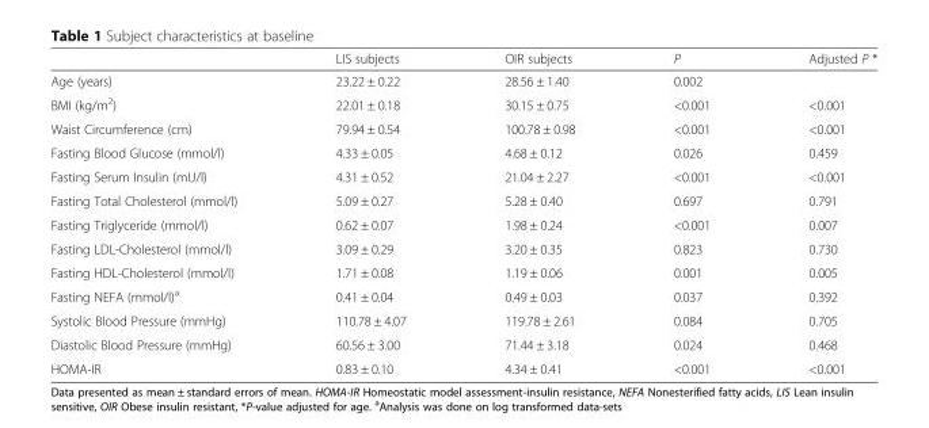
<table><thead><tr><td></td><td>LIS subjects</td><td>OIR subjects</td><td>P</td><td>Adjusted P *</td></tr></thead><tbody><tr><td>Age (years)</td><td>23.22 ± 0.22</td><td>28.56 ± 1.40</td><td>0.002</td><td></td></tr><tr><td>BMI (kg/m<sup>2</sup>)</td><td>22.01 ± 0.18</td><td>30.15 ± 0.75</td><td>&lt;0.001</td><td>&lt;0.001</td></tr><tr><td>Waist Circumference (cm)</td><td>79.94 ± 0.54</td><td>100.78 ± 0.98</td><td>&lt;0.001</td><td>&lt;0.001</td></tr><tr><td>Fasting Blood Glucose (mmol/l)</td><td>4.33 ± 0.05</td><td>4.68 ± 0.12</td><td>0.026</td><td>0.459</td></tr><tr><td>Fasting Serum Insulin (mU/l)</td><td>4.31 ± 0.52</td><td>21.04 ± 2.27</td><td>&lt;0.001</td><td>&lt;0.001</td></tr><tr><td>Fasting Total Cholesterol (mmol/l)</td><td>5.09 ± 0.27</td><td>5.28 ± 0.40</td><td>0.697</td><td>0.791</td></tr><tr><td>Fasting Triglyceride (mmol/l)</td><td>0.62 ± 0.07</td><td>1.98 ± 0.24</td><td>&lt;0.001</td><td>0.007</td></tr><tr><td>Fasting LDL-Cholesterol (mmol/l)</td><td>3.09 ± 0.29</td><td>3.20 ± 0.35</td><td>0.823</td><td>0.730</td></tr><tr><td>Fasting HDL-Cholesterol (mmol/l)</td><td>1.71 ± 0.08</td><td>1.19 ± 0.06</td><td>0.001</td><td>0.005</td></tr><tr><td>Fasting NEFA (mmol/l)<sup>a</sup></td><td>0.41 ± 0.04</td><td>0.49 ± 0.03</td><td>0.037</td><td>0.392</td></tr><tr><td>Systolic Blood Pressure (mmHg)</td><td>110.78 ± 4.07</td><td>119.78 ± 2.61</td><td>0.084</td><td>0.705</td></tr><tr><td>Diastolic Blood Pressure (mmHg)</td><td>60.56 ± 3.00</td><td>71.44 ± 3.18</td><td>0.024</td><td>0.468</td></tr><tr><td>HOMA-IR</td><td>0.83 ± 0.10</td><td>4.34 ± 0.41</td><td>&lt;0.001</td><td>&lt;0.001</td></tr></tbody></table>